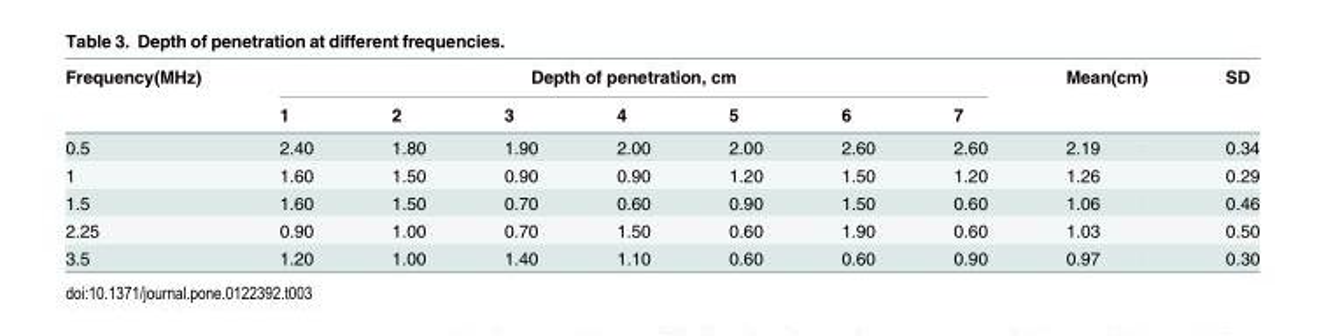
<table><thead><tr><td rowspan="2">Frequency(MHz)</td><td colspan="7">Depth of penetration, cm</td><td rowspan="2">Mean(cm)</td><td rowspan="2">SD</td></tr><tr><td>1</td><td>2</td><td>3</td><td>4</td><td>5</td><td>6</td><td>7</td></tr></thead><tbody><tr><td>0.5</td><td>2.40</td><td>1.80</td><td>1.90</td><td>2.00</td><td>2.00</td><td>2.60</td><td>2.60</td><td>2.19</td><td>0.34</td></tr><tr><td>1</td><td>1.60</td><td>1.50</td><td>0.90</td><td>0.90</td><td>1.20</td><td>1.50</td><td>1.20</td><td>1.26</td><td>0.29</td></tr><tr><td>1.5</td><td>1.60</td><td>1.50</td><td>0.70</td><td>0.60</td><td>0.90</td><td>1.50</td><td>0.60</td><td>1.06</td><td>0.46</td></tr><tr><td>2.25</td><td>0.90</td><td>1.00</td><td>0.70</td><td>1.50</td><td>0.60</td><td>1.90</td><td>0.60</td><td>1.03</td><td>0.50</td></tr><tr><td>3.5</td><td>1.20</td><td>1.00</td><td>1.40</td><td>1.10</td><td>0.60</td><td>0.60</td><td>0.90</td><td>0.97</td><td>0.30</td></tr></tbody></table>